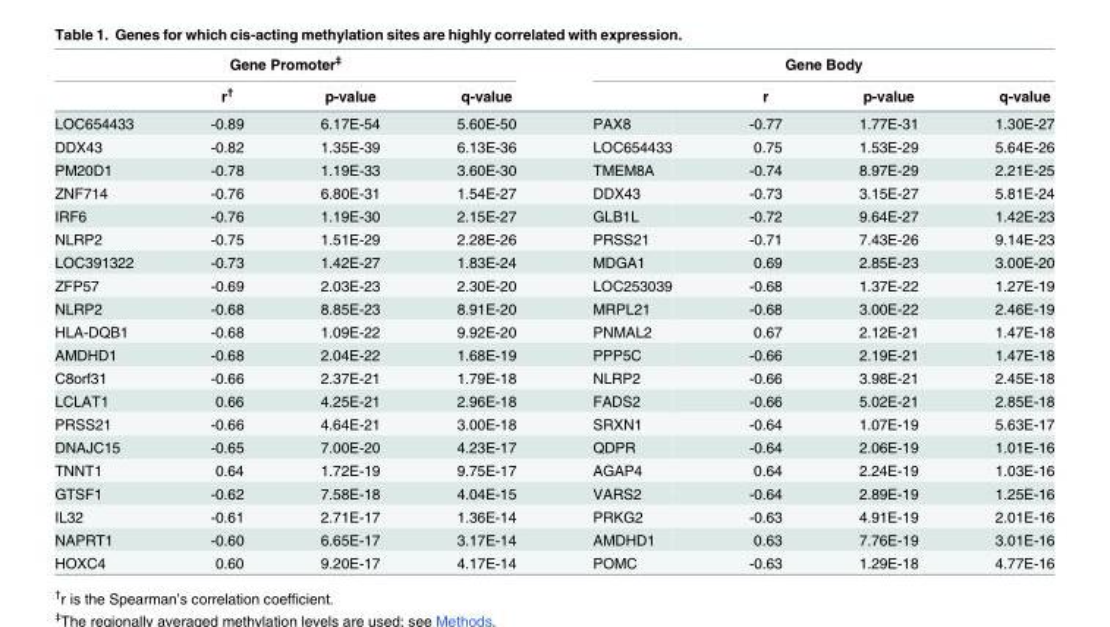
<table><thead><tr><td colspan="4">Gene Promoter<sup>‡</sup></td><td colspan="4">Gene Body</td></tr><tr><td></td><td>r<sup>†</sup></td><td>p-value</td><td>q-value</td><td></td><td>r</td><td>p-value</td><td>q-value</td></tr></thead><tbody><tr><td>LOC654433</td><td>-0.89</td><td>6.17E-54</td><td>5.60E-50</td><td>PAX8</td><td>-0.77</td><td>1.77E-31</td><td>1.30E-27</td></tr><tr><td>DDX43</td><td>-0.82</td><td>1.35E-39</td><td>6.13E-36</td><td>LOC654433</td><td>0.75</td><td>1.53E-29</td><td>5.64E-26</td></tr><tr><td>PM20D1</td><td>-0.78</td><td>1.19E-33</td><td>3.60E-30</td><td>TMEM8A</td><td>-0.74</td><td>8.97E-29</td><td>2.21E-25</td></tr><tr><td>ZNF714</td><td>-0.76</td><td>6.80E-31</td><td>1.54E-27</td><td>DDX43</td><td>-0.73</td><td>3.15E-27</td><td>5.81E-24</td></tr><tr><td>IRF6</td><td>-0.76</td><td>1.19E-30</td><td>2.15E-27</td><td>GLB1L</td><td>-0.72</td><td>9.64E-27</td><td>1.42E-23</td></tr><tr><td>NLRP2</td><td>-0.75</td><td>1.51E-29</td><td>2.28E-26</td><td>PRSS21</td><td>-0.71</td><td>7.43E-26</td><td>9.14E-23</td></tr><tr><td>LOC391322</td><td>-0.73</td><td>1.42E-27</td><td>1.83E-24</td><td>MDGA1</td><td>0.69</td><td>2.85E-23</td><td>3.00E-20</td></tr><tr><td>ZFP57</td><td>-0.69</td><td>2.03E-23</td><td>2.30E-20</td><td>LOC253039</td><td>-0.68</td><td>1.37E-22</td><td>1.27E-19</td></tr><tr><td>NLRP2</td><td>-0.68</td><td>8.85E-23</td><td>8.91E-20</td><td>MRPL21</td><td>-0.68</td><td>3.00E-22</td><td>2.46E-19</td></tr><tr><td>HLA-DQB1</td><td>-0.68</td><td>1.09E-22</td><td>9.92E-20</td><td>PNMAL2</td><td>0.67</td><td>2.12E-21</td><td>1.47E-18</td></tr><tr><td>AMDHD1</td><td>-0.68</td><td>2.04E-22</td><td>1.68E-19</td><td>PPP5C</td><td>-0.66</td><td>2.19E-21</td><td>1.47E-18</td></tr><tr><td>C8orf31</td><td>-0.66</td><td>2.37E-21</td><td>1.79E-18</td><td>NLRP2</td><td>-0.66</td><td>3.98E-21</td><td>2.45E-18</td></tr><tr><td>LCLAT1</td><td>0.66</td><td>4.25E-21</td><td>2.96E-18</td><td>FADS2</td><td>-0.66</td><td>5.02E-21</td><td>2.85E-18</td></tr><tr><td>PRSS21</td><td>-0.66</td><td>4.64E-21</td><td>3.00E-18</td><td>SRXN1</td><td>-0.64</td><td>1.07E-19</td><td>5.63E-17</td></tr><tr><td>DNAJC15</td><td>-0.65</td><td>7.00E-20</td><td>4.23E-17</td><td>QDPR</td><td>-0.64</td><td>2.06E-19</td><td>1.01E-16</td></tr><tr><td>TNNT1</td><td>0.64</td><td>1.72E-19</td><td>9.75E-17</td><td>AGAP4</td><td>0.64</td><td>2.24E-19</td><td>1.03E-16</td></tr><tr><td>GTSF1</td><td>-0.62</td><td>7.58E-18</td><td>4.04E-15</td><td>VARS2</td><td>-0.64</td><td>2.89E-19</td><td>1.25E-16</td></tr><tr><td>IL32</td><td>-0.61</td><td>2.71E-17</td><td>1.36E-14</td><td>PRKG2</td><td>-0.63</td><td>4.91E-19</td><td>2.01E-16</td></tr><tr><td>NAPRT1</td><td>-0.60</td><td>6.65E-17</td><td>3.17E-14</td><td>AMDHD1</td><td>0.63</td><td>7.76E-19</td><td>3.01E-16</td></tr><tr><td>HOXC4</td><td>0.60</td><td>9.20E-17</td><td>4.17E-14</td><td>POMC</td><td>-0.63</td><td>1.29E-18</td><td>4.77E-16</td></tr></tbody></table>